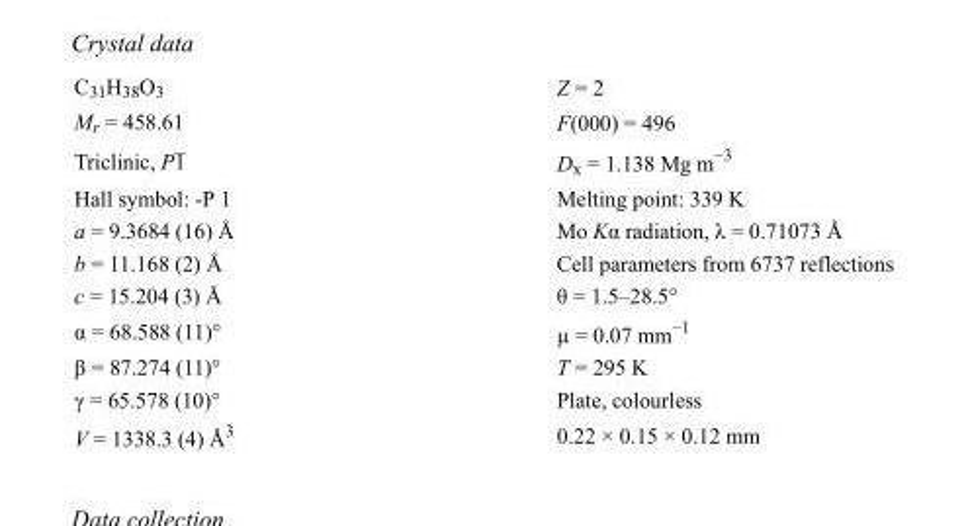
<table><tbody><tr><td>C<sub>31</sub>H<sub>38</sub>O<sub>3</sub></td><td>Z = 2</td></tr><tr><td>M<sub>r</sub> = 458.61</td><td>F(000) = 496</td></tr><tr><td>Triclinic, P1</td><td>D<sub>x</sub> = 1.138 Mg m<sup>−3</sup></td></tr><tr><td>Hall symbol: -P 1</td><td>Melting point: 339 K</td></tr><tr><td>a = 9.3684 (16) Å</td><td>Mo Kα radiation, λ = 0.71073 Å</td></tr><tr><td>b = 11.168 (2) Å</td><td>Cell parameters from 6737 reflections</td></tr><tr><td>c = 15.204 (3) Å</td><td>θ = 1.5–28.5°</td></tr><tr><td>α = 68.588 (11)°</td><td>µ = 0.07 mm<sup>−1</sup></td></tr><tr><td>β = 87.274 (11)°</td><td>T = 295 K</td></tr><tr><td>γ = 65.578 (10)°</td><td>Plate, colourless</td></tr><tr><td>V = 1338.3 (4) Å<sup>3</sup></td><td>0.22 × 0.15 × 0.12 mm</td></tr></tbody></table>